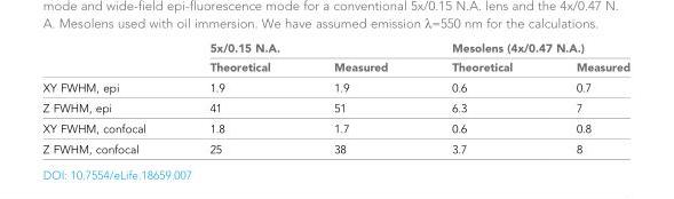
<table><thead><tr><td rowspan="2"></td><td colspan="2">5x/0.15 N.A.</td><td colspan="2">Mesolens (4x/0.47 N.A.)</td></tr><tr><td>Theoretical</td><td>Measured</td><td>Theoretical</td><td>Measured</td></tr></thead><tbody><tr><td>XY FWHM, epi</td><td>1.9</td><td>1.9</td><td>0.6</td><td>0.7</td></tr><tr><td>Z FWHM, epi</td><td>41</td><td>51</td><td>6.3</td><td>7</td></tr><tr><td>XY FWHM, confocal</td><td>1.8</td><td>1.7</td><td>0.6</td><td>0.8</td></tr><tr><td>Z FWHM, confocal</td><td>25</td><td>38</td><td>3.7</td><td>8</td></tr></tbody></table>